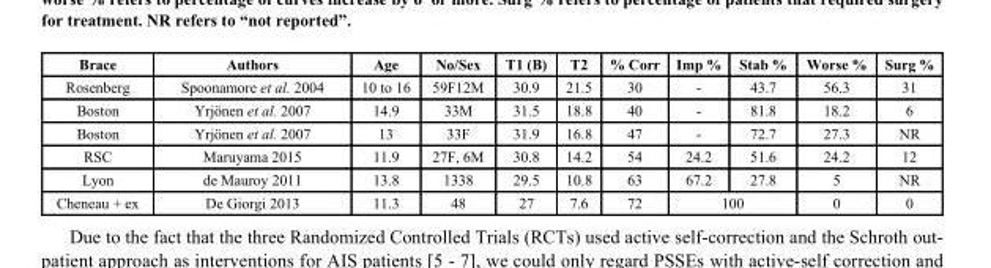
<table><thead><tr><td>Brace</td><td>Authors</td><td>Age</td><td>No/Sex</td><td>T1 (B)</td><td>T2</td><td>% Corr</td><td>Imp %</td><td>Stab %</td><td>Worse %</td><td>Surg %</td></tr></thead><tbody><tr><td>Rosenberg</td><td>Spoonamore et al. 2004</td><td>10 to 16</td><td>59F12M</td><td>30.9</td><td>21.5</td><td>30</td><td>-</td><td>43.7</td><td>56.3</td><td>31</td></tr><tr><td>Boston</td><td>Yrjönen et al. 2007</td><td>14.9</td><td>33M</td><td>31.5</td><td>18.8</td><td>40</td><td>-</td><td>81.8</td><td>18.2</td><td>6</td></tr><tr><td>Boston</td><td>Yrjönen et al. 2007</td><td>13</td><td>33F</td><td>31.9</td><td>16.8</td><td>47</td><td>-</td><td>72.7</td><td>27.3</td><td>NR</td></tr><tr><td>RSC</td><td>Maruyama 2015</td><td>11.9</td><td>27F, 6M</td><td>30.8</td><td>14.2</td><td>54</td><td>24.2</td><td>51.6</td><td>24.2</td><td>12</td></tr><tr><td>Lyon</td><td>de Mauroy 2011</td><td>13.8</td><td>1338</td><td>29.5</td><td>10.8</td><td>63</td><td>67.2</td><td>27.8</td><td>5</td><td>NR</td></tr><tr><td>Cheneau + ex</td><td>De Giorgi 2013</td><td>11.3</td><td>48</td><td>27</td><td>7.6</td><td>72</td><td colspan="2">100</td><td>0</td><td>0</td></tr></tbody></table>